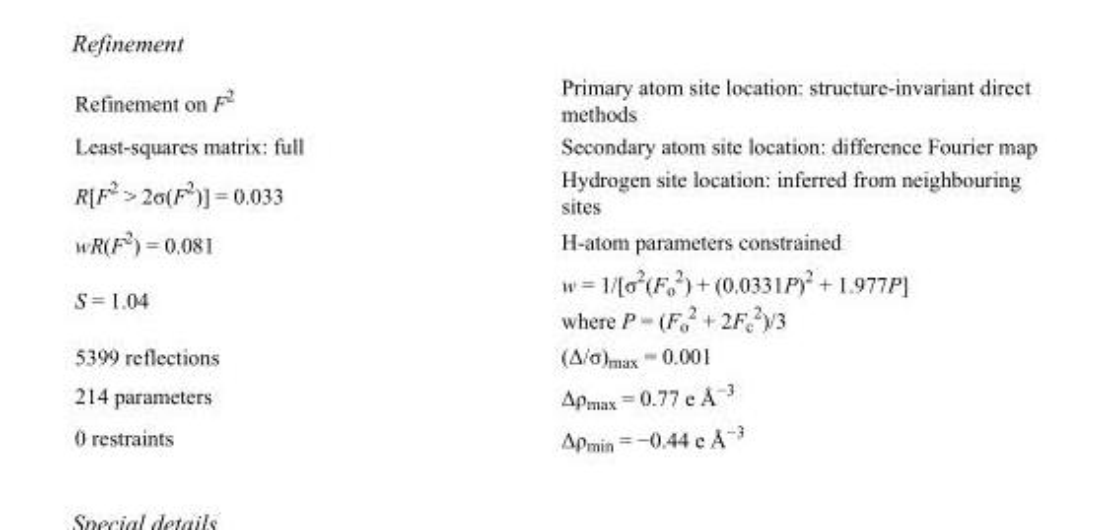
<table><tbody><tr><td>Refinement on F<sup>2</sup></td><td>Primary atom site location: structure-invariant direct methods</td></tr><tr><td>Least-squares matrix: full</td><td>Secondary atom site location: difference Fourier map</td></tr><tr><td>R[F<sup>2</sup> &gt; 2σ(F<sup>2</sup>)] = 0.033</td><td>Hydrogen site location: inferred from neighbouring sites</td></tr><tr><td>wR(F<sup>2</sup>) = 0.081</td><td>H-atom parameters constrained</td></tr><tr><td>S = 1.04</td><td>w = 1/[σ<sup>2</sup>(F<sub>o</sub> <sup>2</sup>) + (0.0331P)<sup>2</sup> + 1.977P] where P = (F<sub>o</sub> <sup>2</sup> + 2F<sub>c</sub> <sup>2</sup>)/3</td></tr><tr><td>5399 reflections</td><td>(Δ/σ)<sub>max</sub> = 0.001</td></tr><tr><td>214 parameters</td><td>Δρ<sub>max</sub> = 0.77 e Å<sup>−3</sup></td></tr><tr><td>0 restraints</td><td>Δρ<sub>min</sub> = −0.44 e Å<sup>−3</sup></td></tr></tbody></table>